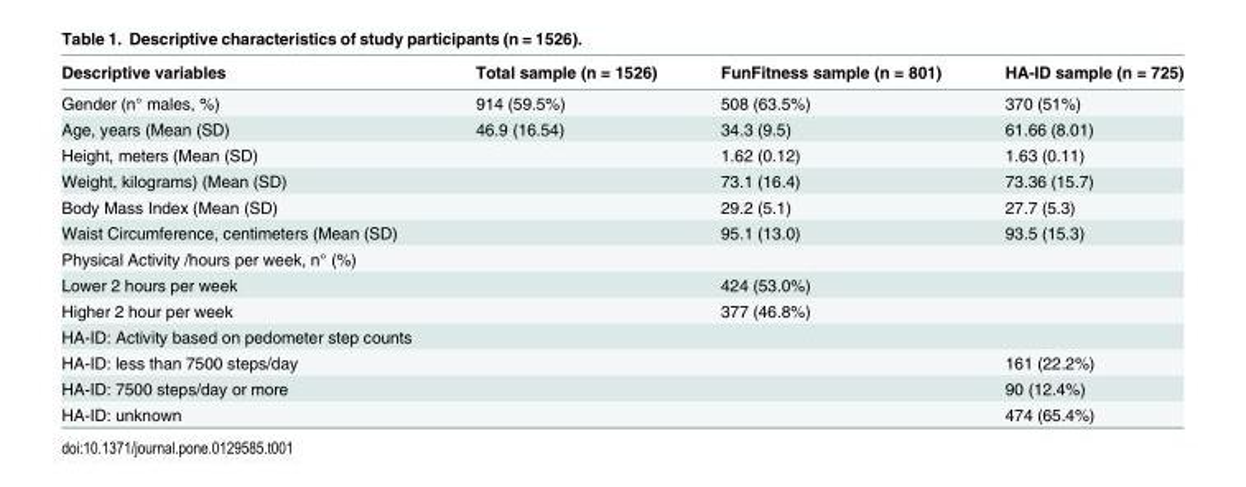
<table><thead><tr><td>Descriptive variables</td><td>Total sample (n = 1526)</td><td>FunFitness sample (n = 801)</td><td>HA-ID sample (n = 725)</td></tr></thead><tbody><tr><td>Gender (n° males, %)</td><td>914 (59.5%)</td><td>508 (63.5%)</td><td>370 (51%)</td></tr><tr><td>Age, years (Mean (SD)</td><td>46.9 (16.54)</td><td>34.3 (9.5)</td><td>61.66 (8.01)</td></tr><tr><td>Height, meters (Mean (SD)</td><td></td><td>1.62 (0.12)</td><td>1.63 (0.11)</td></tr><tr><td>Weight, kilograms) (Mean (SD)</td><td></td><td>73.1 (16.4)</td><td>73.36 (15.7)</td></tr><tr><td>Body Mass Index (Mean (SD)</td><td></td><td>29.2 (5.1)</td><td>27.7 (5.3)</td></tr><tr><td>Waist Circumference, centimeters (Mean (SD)</td><td></td><td>95.1 (13.0)</td><td>93.5 (15.3)</td></tr><tr><td colspan="4">Physical Activity /hours per week, n° (%)</td></tr><tr><td>Lower 2 hours per week</td><td></td><td>424 (53.0%)</td><td></td></tr><tr><td>Higher 2 hour per week</td><td></td><td>377 (46.8%)</td><td></td></tr><tr><td colspan="4">HA-ID: Activity based on pedometer step counts</td></tr><tr><td>HA-ID: less than 7500 steps/day</td><td></td><td></td><td>161 (22.2%)</td></tr><tr><td>HA-ID: 7500 steps/day or more</td><td></td><td></td><td>90 (12.4%)</td></tr><tr><td>HA-ID: unknown</td><td></td><td></td><td>474 (65.4%)</td></tr></tbody></table>